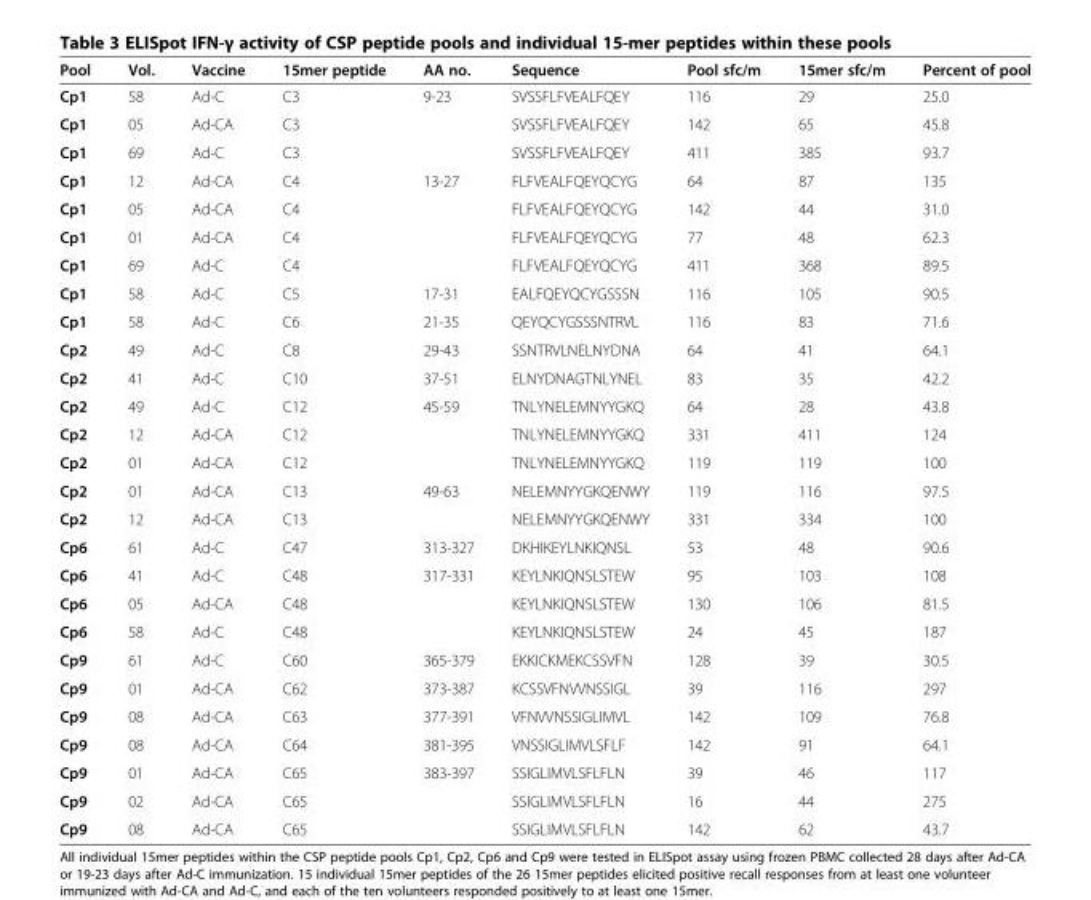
<table><thead><tr><td>Pool</td><td>Vol.</td><td>Vaccine</td><td>15mer peptide</td><td>AA no.</td><td>Sequence</td><td>Pool sfc/m</td><td>15mer sfc/m</td><td>Percent of pool</td></tr></thead><tbody><tr><td>Cp1</td><td>58</td><td>Ad-C</td><td>C3</td><td>9-23</td><td>SVSSFLFVEALFQEY</td><td>116</td><td>29</td><td>25.0</td></tr><tr><td>Cp1</td><td>05</td><td>Ad-CA</td><td>C3</td><td></td><td>SVSSFLFVEALFQEY</td><td>142</td><td>65</td><td>45.8</td></tr><tr><td>Cp1</td><td>69</td><td>Ad-C</td><td>C3</td><td></td><td>SVSSFLFVEALFQEY</td><td>411</td><td>385</td><td>93.7</td></tr><tr><td>Cp1</td><td>12</td><td>Ad-CA</td><td>C4</td><td>13-27</td><td>FLFVEALFQEYQCYG</td><td>64</td><td>87</td><td>135</td></tr><tr><td>Cp1</td><td>05</td><td>Ad-CA</td><td>C4</td><td></td><td>FLFVEALFQEYQCYG</td><td>142</td><td>44</td><td>31.0</td></tr><tr><td>Cp1</td><td>01</td><td>Ad-CA</td><td>C4</td><td></td><td>FLFVEALFQEYQCYG</td><td>77</td><td>48</td><td>62.3</td></tr><tr><td>Cp1</td><td>69</td><td>Ad-C</td><td>C4</td><td></td><td>FLFVEALFQEYQCYG</td><td>411</td><td>368</td><td>89.5</td></tr><tr><td>Cp1</td><td>58</td><td>Ad-C</td><td>C5</td><td>17-31</td><td>EALFQEYQCYGSSSN</td><td>116</td><td>105</td><td>90.5</td></tr><tr><td>Cp1</td><td>58</td><td>Ad-C</td><td>C6</td><td>21-35</td><td>QEYQCYGSSSNTRVL</td><td>116</td><td>83</td><td>71.6</td></tr><tr><td>Cp2</td><td>49</td><td>Ad-C</td><td>C8</td><td>29-43</td><td>SSNTRVLNELNYDNA</td><td>64</td><td>41</td><td>64.1</td></tr><tr><td>Cp2</td><td>41</td><td>Ad-C</td><td>C10</td><td>37-51</td><td>ELNYDNAGTNLYNEL</td><td>83</td><td>35</td><td>42.2</td></tr><tr><td>Cp2</td><td>49</td><td>Ad-C</td><td>C12</td><td>45-59</td><td>TNLYNELEMNYYGKQ</td><td>64</td><td>28</td><td>43.8</td></tr><tr><td>Cp2</td><td>12</td><td>Ad-CA</td><td>C12</td><td></td><td>TNLYNELEMNYYGKQ</td><td>331</td><td>411</td><td>124</td></tr><tr><td>Cp2</td><td>01</td><td>Ad-CA</td><td>C12</td><td></td><td>TNLYNELEMNYYGKQ</td><td>119</td><td>119</td><td>100</td></tr><tr><td>Cp2</td><td>01</td><td>Ad-CA</td><td>C13</td><td>49-63</td><td>NELEMNYYGKQENWY</td><td>119</td><td>116</td><td>97.5</td></tr><tr><td>Cp2</td><td>12</td><td>Ad-CA</td><td>C13</td><td></td><td>NELEMNYYGKQENWY</td><td>331</td><td>334</td><td>100</td></tr><tr><td>Cp6</td><td>61</td><td>Ad-C</td><td>C47</td><td>313-327</td><td>DKHIKEYLNKIQNSL</td><td>53</td><td>48</td><td>90.6</td></tr><tr><td>Cp6</td><td>41</td><td>Ad-C</td><td>C48</td><td>317-331</td><td>KEYLNKIQNSLSTEW</td><td>95</td><td>103</td><td>108</td></tr><tr><td>Cp6</td><td>05</td><td>Ad-CA</td><td>C48</td><td></td><td>KEYLNKIQNSLSTEW</td><td>130</td><td>106</td><td>81.5</td></tr><tr><td>Cp6</td><td>58</td><td>Ad-C</td><td>C48</td><td></td><td>KEYLNKIQNSLSTEW</td><td>24</td><td>45</td><td>187</td></tr><tr><td>Cp9</td><td>61</td><td>Ad-C</td><td>C60</td><td>365-379</td><td>EKKICKMEKCSSVFN</td><td>128</td><td>39</td><td>30.5</td></tr><tr><td>Cp9</td><td>01</td><td>Ad-CA</td><td>C62</td><td>373-387</td><td>KCSSVFNVVNSSIGL</td><td>39</td><td>116</td><td>297</td></tr><tr><td>Cp9</td><td>08</td><td>Ad-CA</td><td>C63</td><td>377-391</td><td>VFNVVNSSIGLIMVL</td><td>142</td><td>109</td><td>76.8</td></tr><tr><td>Cp9</td><td>08</td><td>Ad-CA</td><td>C64</td><td>381-395</td><td>VNSSIGLIMVLSFLF</td><td>142</td><td>91</td><td>64.1</td></tr><tr><td>Cp9</td><td>01</td><td>Ad-CA</td><td>C65</td><td>383-397</td><td>SSIGLIMVLSFLFLN</td><td>39</td><td>46</td><td>117</td></tr><tr><td>Cp9</td><td>02</td><td>Ad-CA</td><td>C65</td><td></td><td>SSIGLIMVLSFLFLN</td><td>16</td><td>44</td><td>275</td></tr><tr><td>Cp9</td><td>08</td><td>Ad-CA</td><td>C65</td><td></td><td>SSIGLIMVLSFLFLN</td><td>142</td><td>62</td><td>43.7</td></tr></tbody></table>